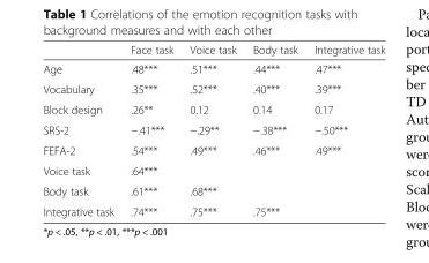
<table><thead><tr><td></td><td>Face task</td><td>Voice task</td><td>Body task</td><td>Integrative task</td></tr></thead><tbody><tr><td>Age</td><td>.48***</td><td>.51***</td><td>.44***</td><td>.47***</td></tr><tr><td>Vocabulary</td><td>.35***</td><td>.52***</td><td>.40***</td><td>.39***</td></tr><tr><td>Block design</td><td>.26**</td><td>0.12</td><td>0.14</td><td>0.17</td></tr><tr><td>SRS-2</td><td>−.41***</td><td>−.29**</td><td>−.38***</td><td>−.50***</td></tr><tr><td>FEFA-2</td><td>.54***</td><td>.49***</td><td>.46***</td><td>.49***</td></tr><tr><td>Voice task</td><td>.64***</td><td></td><td></td><td></td></tr><tr><td>Body task</td><td>.61***</td><td>.68***</td><td></td><td></td></tr><tr><td>Integrative task</td><td>.74***</td><td>.75***</td><td>.75***</td><td></td></tr></tbody></table>